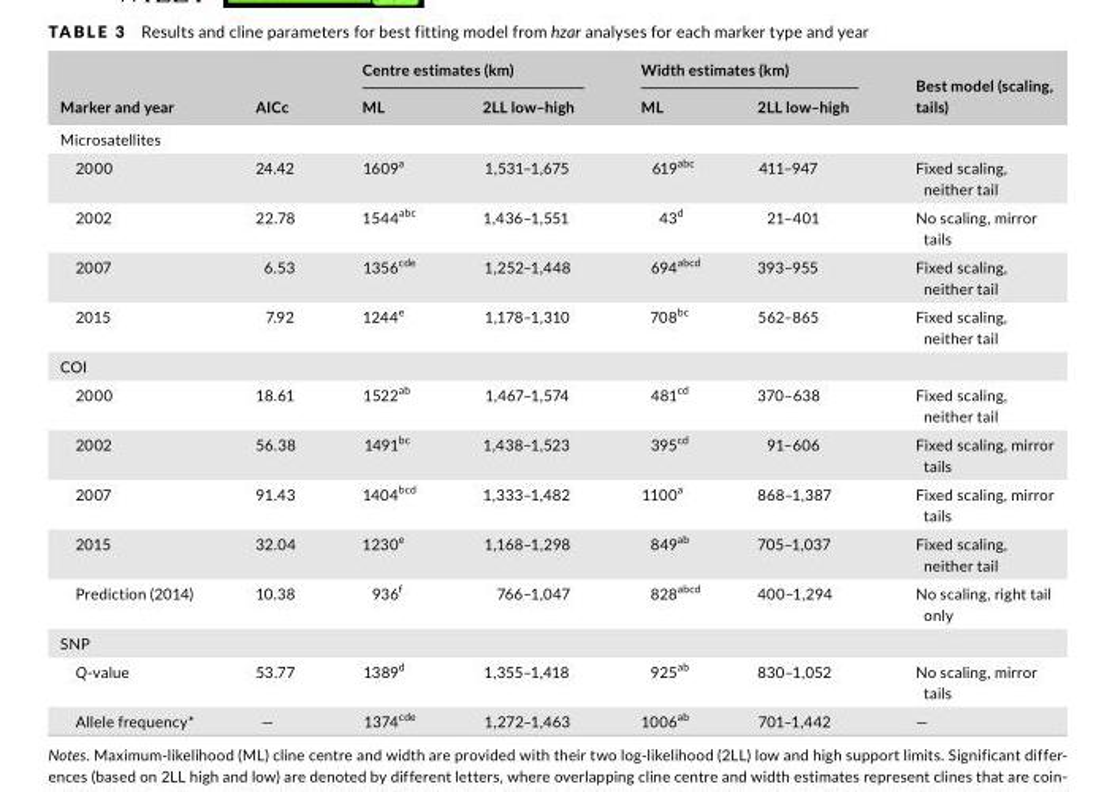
<table><thead><tr><td rowspan="2">Marker and year</td><td rowspan="2">AICc</td><td colspan="2">Centre estimates (km)</td><td colspan="2">Width estimates (km)</td><td rowspan="2">Best model (scaling, tails)</td></tr><tr><td>ML</td><td>2LL low–high</td><td>ML</td><td>2LL low–high</td></tr></thead><tbody><tr><td colspan="7">Microsatellites</td></tr><tr><td>2000</td><td>24.42</td><td>1609<sup>a</sup></td><td>1,531–1,675</td><td>619<sup>abc</sup></td><td>411–947</td><td>Fixed scaling, neither tail</td></tr><tr><td>2002</td><td>22.78</td><td>1544<sup>abc</sup></td><td>1,436–1,551</td><td>43<sup>d</sup></td><td>21–401</td><td>No scaling, mirror tails</td></tr><tr><td>2007</td><td>6.53</td><td>1356<sup>cde</sup></td><td>1,252–1,448</td><td>694<sup>abcd</sup></td><td>393–955</td><td>Fixed scaling, neither tail</td></tr><tr><td>2015</td><td>7.92</td><td>1244<sup>e</sup></td><td>1,178–1,310</td><td>708<sup>bc</sup></td><td>562–865</td><td>Fixed scaling, neither tail</td></tr><tr><td colspan="7">COI</td></tr><tr><td>2000</td><td>18.61</td><td>1522<sup>ab</sup></td><td>1,467–1,574</td><td>481<sup>cd</sup></td><td>370–638</td><td>Fixed scaling, neither tail</td></tr><tr><td>2002</td><td>56.38</td><td>1491<sup>bc</sup></td><td>1,438–1,523</td><td>395<sup>cd</sup></td><td>91–606</td><td>Fixed scaling, mirror tails</td></tr><tr><td>2007</td><td>91.43</td><td>1404<sup>bcd</sup></td><td>1,333–1,482</td><td>1100<sup>a</sup></td><td>868–1,387</td><td>Fixed scaling, mirror tails</td></tr><tr><td>2015</td><td>32.04</td><td>1230<sup>e</sup></td><td>1,168–1,298</td><td>849<sup>ab</sup></td><td>705–1,037</td><td>Fixed scaling, neither tail</td></tr><tr><td>Prediction (2014)</td><td>10.38</td><td>936<sup>f</sup></td><td>766–1,047</td><td>828<sup>abcd</sup></td><td>400–1,294</td><td>No scaling, right tail only</td></tr><tr><td colspan="7">SNP</td></tr><tr><td>Q- value</td><td>53.77</td><td>1389<sup>d</sup></td><td>1,355–1,418</td><td>925<sup>ab</sup></td><td>830–1,052</td><td>No scaling, mirror tails</td></tr><tr><td>Allele frequency*</td><td>—</td><td>1374<sup>cde</sup></td><td>1,272–1,463</td><td>1006<sup>ab</sup></td><td>701–1,442</td><td>—</td></tr></tbody></table>